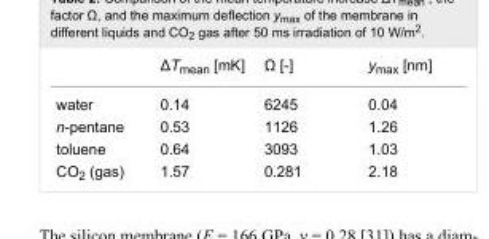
<table><thead><tr><td></td><td>ΔT<sub>mean</sub> [mK]</td><td>Ω [-]</td><td>y<sub>max</sub> [nm]</td></tr></thead><tbody><tr><td>water</td><td>0.14</td><td>6245</td><td>0.04</td></tr><tr><td>n-pentane</td><td>0.53</td><td>1126</td><td>1.26</td></tr><tr><td>toluene</td><td>0.64</td><td>3093</td><td>1.03</td></tr><tr><td>CO<sub>2</sub> (gas)</td><td>1.57</td><td>0.281</td><td>2.18</td></tr></tbody></table>